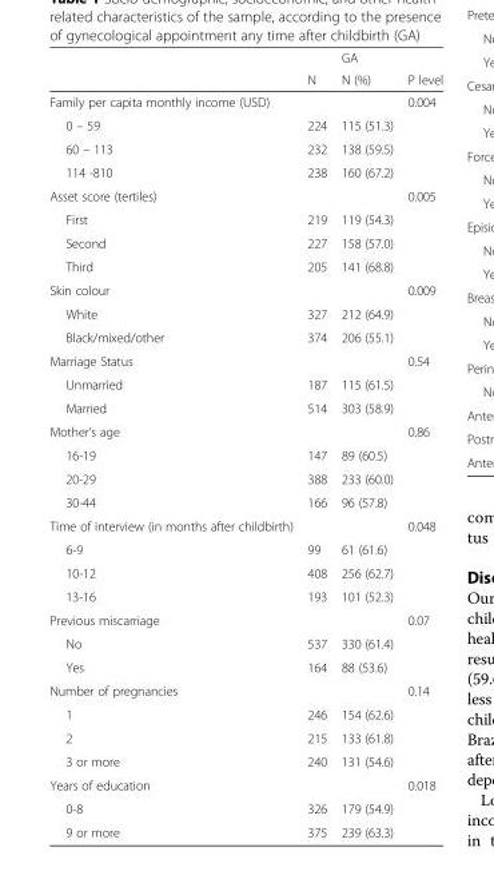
<table><thead><tr><td rowspan="2"></td><td rowspan="2">N</td><td rowspan="2">GA N (%)</td><td rowspan="2">P level</td></tr><tr></tr></thead><tbody><tr><td>Family per capita monthly income (USD)</td><td></td><td></td><td>0.004</td></tr><tr><td>0 – 59</td><td>224</td><td>115 (51.3)</td><td></td></tr><tr><td>60 – 113</td><td>232</td><td>138 (59.5)</td><td></td></tr><tr><td>114 -810</td><td>238</td><td>160 (67.2)</td><td></td></tr><tr><td>Asset score (tertiles)</td><td></td><td></td><td>0.005</td></tr><tr><td>First</td><td>219</td><td>119 (54.3)</td><td></td></tr><tr><td>Second</td><td>227</td><td>158 (57.0)</td><td></td></tr><tr><td>Third</td><td>205</td><td>141 (68.8)</td><td></td></tr><tr><td>Skin colour</td><td></td><td></td><td>0.009</td></tr><tr><td>White</td><td>327</td><td>212 (64.9)</td><td></td></tr><tr><td>Black/mixed/other</td><td>374</td><td>206 (55.1)</td><td></td></tr><tr><td>Marriage Status</td><td></td><td></td><td>0.54</td></tr><tr><td>Unmarried</td><td>187</td><td>115 (61.5)</td><td></td></tr><tr><td>Married</td><td>514</td><td>303 (58.9)</td><td></td></tr><tr><td>Mother’s age</td><td></td><td></td><td>0.86</td></tr><tr><td>16-19</td><td>147</td><td>89 (60.5)</td><td></td></tr><tr><td>20-29</td><td>388</td><td>233 (60.0)</td><td></td></tr><tr><td>30-44</td><td>166</td><td>96 (57.8)</td><td></td></tr><tr><td>Time of interview (in months after childbirth)</td><td></td><td></td><td>0.048</td></tr><tr><td>6-9</td><td>99</td><td>61 (61.6)</td><td></td></tr><tr><td>10-12</td><td>408</td><td>256 (62.7)</td><td></td></tr><tr><td>13-16</td><td>193</td><td>101 (52.3)</td><td></td></tr><tr><td>Previous miscarriage</td><td></td><td></td><td>0.07</td></tr><tr><td>No</td><td>537</td><td>330 (61.4)</td><td></td></tr><tr><td>Yes</td><td>164</td><td>88 (53.6)</td><td></td></tr><tr><td>Number of pregnancies</td><td></td><td></td><td>0.14</td></tr><tr><td>1</td><td>246</td><td>154 (62.6)</td><td></td></tr><tr><td>2</td><td>215</td><td>133 (61.8)</td><td></td></tr><tr><td>3 or more</td><td>240</td><td>131 (54.6)</td><td></td></tr><tr><td>Years of education</td><td></td><td></td><td>0.018</td></tr><tr><td>0-8</td><td>326</td><td>179 (54.9)</td><td></td></tr><tr><td>9 or more</td><td>375</td><td>239 (63.3)</td><td></td></tr></tbody></table>